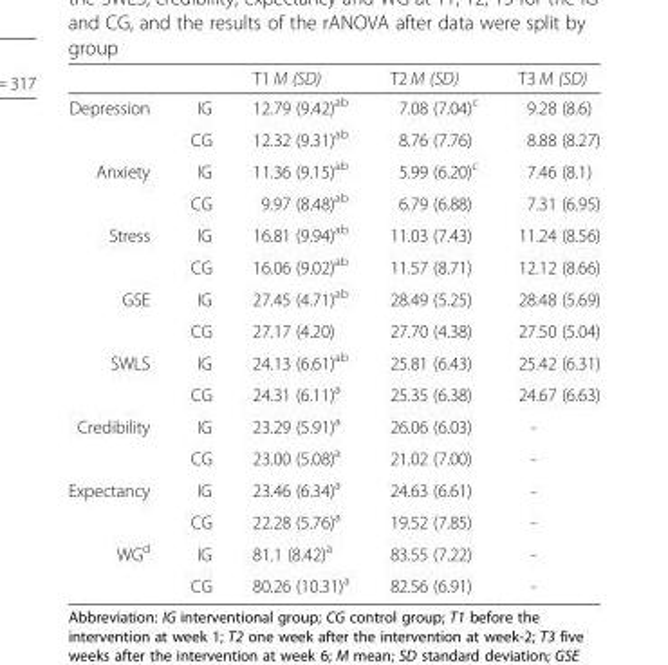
<table><thead><tr><td></td><td></td><td>T1 M (SD)</td><td>T2 M (SD)</td><td>T3 M (SD)</td></tr></thead><tbody><tr><td rowspan="2">Depression</td><td>IG</td><td>12.79 (9.42)<sup>ab</sup></td><td>7.08 (7.04)<sup>c</sup></td><td>9.28 (8.6)</td></tr><tr><td>CG</td><td>12.32 (9.31)<sup>ab</sup></td><td>8.76 (7.76)</td><td>8.88 (8.27)</td></tr><tr><td rowspan="2">Anxiety</td><td>IG</td><td>11.36 (9.15)<sup>ab</sup></td><td>5.99 (6.20)<sup>c</sup></td><td>7.46 (8.1)</td></tr><tr><td>CG</td><td>9.97 (8.48)<sup>ab</sup></td><td>6.79 (6.88)</td><td>7.31 (6.95)</td></tr><tr><td rowspan="2">Stress</td><td>IG</td><td>16.81 (9.94)<sup>ab</sup></td><td>11.03 (7.43)</td><td>11.24 (8.56)</td></tr><tr><td>CG</td><td>16.06 (9.02)<sup>ab</sup></td><td>11.57 (8.71)</td><td>12.12 (8.66)</td></tr><tr><td rowspan="2">GSE</td><td>IG</td><td>27.45 (4.71)<sup>ab</sup></td><td>28.49 (5.25)</td><td>28.48 (5.69)</td></tr><tr><td>CG</td><td>27.17 (4.20)</td><td>27.70 (4.38)</td><td>27.50 (5.04)</td></tr><tr><td rowspan="2">SWLS</td><td>IG</td><td>24.13 (6.61)<sup>ab</sup></td><td>25.81 (6.43)</td><td>25.42 (6.31)</td></tr><tr><td>CG</td><td>24.31 (6.11)<sup>a</sup></td><td>25.35 (6.38)</td><td>24.67 (6.63)</td></tr><tr><td rowspan="2">Credibility</td><td>IG</td><td>23.29 (5.91)<sup>a</sup></td><td>26.06 (6.03)</td><td>-</td></tr><tr><td>CG</td><td>23.00 (5.08)<sup>a</sup></td><td>21.02 (7.00)</td><td>-</td></tr><tr><td rowspan="2">Expectancy</td><td>IG</td><td>23.46 (6.34)<sup>a</sup></td><td>24.63 (6.61)</td><td>-</td></tr><tr><td>CG</td><td>22.28 (5.76)<sup>a</sup></td><td>19.52 (7.85)</td><td>-</td></tr><tr><td rowspan="2">WG<sup>d</sup></td><td>IG</td><td>81.1 (8.42)<sup>a</sup></td><td>83.55 (7.22)</td><td>-</td></tr><tr><td>CG</td><td>80.26 (10.31)<sup>a</sup></td><td>82.56 (6.91)</td><td>-</td></tr></tbody></table>